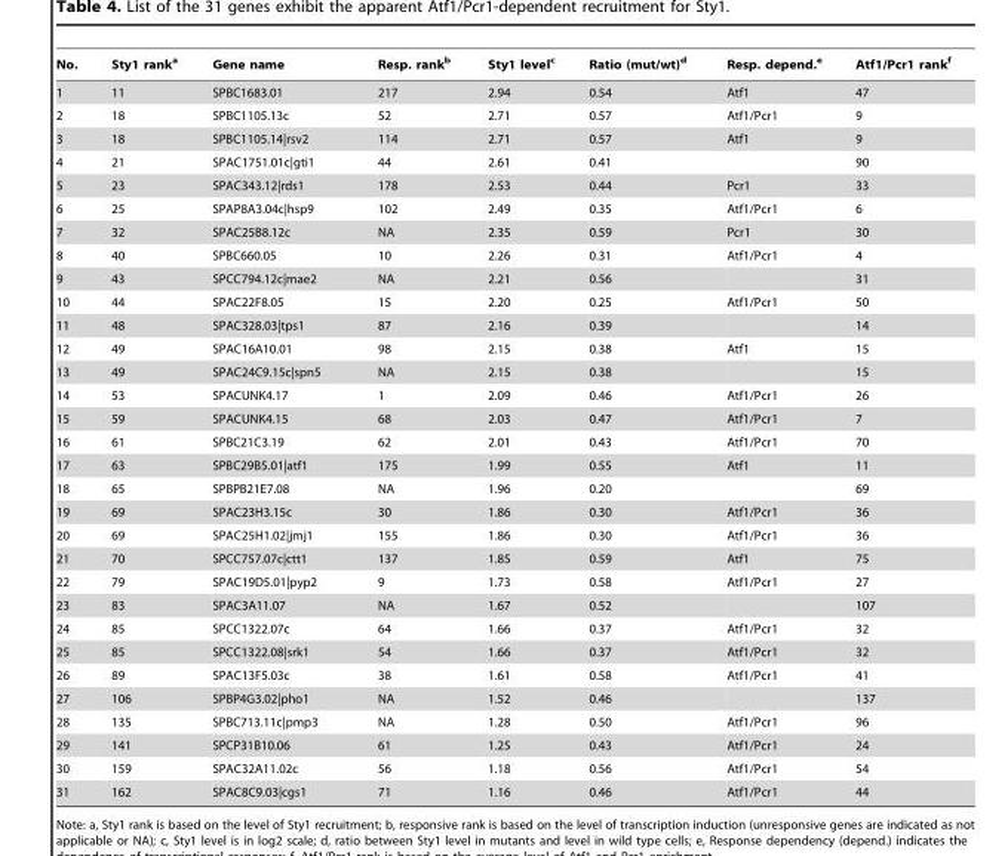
<table><thead><tr><td>No.</td><td>Sty1 rank<sup>a</sup></td><td>Gene name</td><td>Resp. rank<sup>b</sup></td><td>Sty1 level<sup>c</sup></td><td>Ratio (mut/wt)<sup>d</sup></td><td>Resp. depend.<sup>e</sup></td><td>Atf1/Pcr1 rank<sup>f</sup></td></tr></thead><tbody><tr><td>1</td><td>11</td><td>SPBC1683.01</td><td>217</td><td>2.94</td><td>0.54</td><td>Atf1</td><td>47</td></tr><tr><td>2</td><td>18</td><td>SPBC1105.13c</td><td>52</td><td>2.71</td><td>0.57</td><td>Atf1/Pcr1</td><td>9</td></tr><tr><td>3</td><td>18</td><td>SPBC1105.14|rsv2</td><td>114</td><td>2.71</td><td>0.57</td><td>Atf1</td><td>9</td></tr><tr><td>4</td><td>21</td><td>SPAC1751.01c|gti1</td><td>44</td><td>2.61</td><td>0.41</td><td></td><td>90</td></tr><tr><td>5</td><td>23</td><td>SPAC343.12|rds1</td><td>178</td><td>2.53</td><td>0.44</td><td>Pcr1</td><td>33</td></tr><tr><td>6</td><td>25</td><td>SPAP8A3.04c|hsp9</td><td>102</td><td>2.49</td><td>0.35</td><td>Atf1/Pcr1</td><td>6</td></tr><tr><td>7</td><td>32</td><td>SPAC25B8.12c</td><td>NA</td><td>2.35</td><td>0.59</td><td>Pcr1</td><td>30</td></tr><tr><td>8</td><td>40</td><td>SPBC660.05</td><td>10</td><td>2.26</td><td>0.31</td><td>Atf1/Pcr1</td><td>4</td></tr><tr><td>9</td><td>43</td><td>SPCC794.12c|mae2</td><td>NA</td><td>2.21</td><td>0.56</td><td></td><td>31</td></tr><tr><td>10</td><td>44</td><td>SPAC22F8.05</td><td>15</td><td>2.20</td><td>0.25</td><td>Atf1/Pcr1</td><td>50</td></tr><tr><td>11</td><td>48</td><td>SPAC328.03|tps1</td><td>87</td><td>2.16</td><td>0.39</td><td></td><td>14</td></tr><tr><td>12</td><td>49</td><td>SPAC16A10.01</td><td>98</td><td>2.15</td><td>0.38</td><td>Atf1</td><td>15</td></tr><tr><td>13</td><td>49</td><td>SPAC24C9.15c|spn5</td><td>NA</td><td>2.15</td><td>0.38</td><td></td><td>15</td></tr><tr><td>14</td><td>53</td><td>SPACUNK4.17</td><td>1</td><td>2.09</td><td>0.46</td><td>Atf1/Pcr1</td><td>26</td></tr><tr><td>15</td><td>59</td><td>SPACUNK4.15</td><td>68</td><td>2.03</td><td>0.47</td><td>Atf1/Pcr1</td><td>7</td></tr><tr><td>16</td><td>61</td><td>SPBC21C3.19</td><td>62</td><td>2.01</td><td>0.43</td><td>Atf1/Pcr1</td><td>70</td></tr><tr><td>17</td><td>63</td><td>SPBC29B5.01|atf1</td><td>175</td><td>1.99</td><td>0.55</td><td>Atf1</td><td>11</td></tr><tr><td>18</td><td>65</td><td>SPBPB21E7.08</td><td>NA</td><td>1.96</td><td>0.20</td><td></td><td>69</td></tr><tr><td>19</td><td>69</td><td>SPAC23H3.15c</td><td>30</td><td>1.86</td><td>0.30</td><td>Atf1/Pcr1</td><td>36</td></tr><tr><td>20</td><td>69</td><td>SPAC25H1.02|jmj1</td><td>155</td><td>1.86</td><td>0.30</td><td>Atf1/Pcr1</td><td>36</td></tr><tr><td>21</td><td>70</td><td>SPCC757.07c|ctt1</td><td>137</td><td>1.85</td><td>0.59</td><td>Atf1</td><td>75</td></tr><tr><td>22</td><td>79</td><td>SPAC19D5.01|pyp2</td><td>9</td><td>1.73</td><td>0.58</td><td>Atf1/Pcr1</td><td>27</td></tr><tr><td>23</td><td>83</td><td>SPAC3A11.07</td><td>NA</td><td>1.67</td><td>0.52</td><td></td><td>107</td></tr><tr><td>24</td><td>85</td><td>SPCC1322.07c</td><td>64</td><td>1.66</td><td>0.37</td><td>Atf1/Pcr1</td><td>32</td></tr><tr><td>25</td><td>85</td><td>SPCC1322.08|srk1</td><td>54</td><td>1.66</td><td>0.37</td><td>Atf1/Pcr1</td><td>32</td></tr><tr><td>26</td><td>89</td><td>SPAC13F5.03c</td><td>38</td><td>1.61</td><td>0.58</td><td>Atf1/Pcr1</td><td>41</td></tr><tr><td>27</td><td>106</td><td>SPBP4G3.02|pho1</td><td>NA</td><td>1.52</td><td>0.46</td><td></td><td>137</td></tr><tr><td>28</td><td>135</td><td>SPBC713.11c|pmp3</td><td>NA</td><td>1.28</td><td>0.50</td><td>Atf1/Pcr1</td><td>96</td></tr><tr><td>29</td><td>141</td><td>SPCP31B10.06</td><td>61</td><td>1.25</td><td>0.43</td><td>Atf1/Pcr1</td><td>24</td></tr><tr><td>30</td><td>159</td><td>SPAC32A11.02c</td><td>56</td><td>1.18</td><td>0.56</td><td>Atf1/Pcr1</td><td>54</td></tr><tr><td>31</td><td>162</td><td>SPAC8C9.03|cgs1</td><td>71</td><td>1.16</td><td>0.46</td><td>Atf1/Pcr1</td><td>44</td></tr></tbody></table>